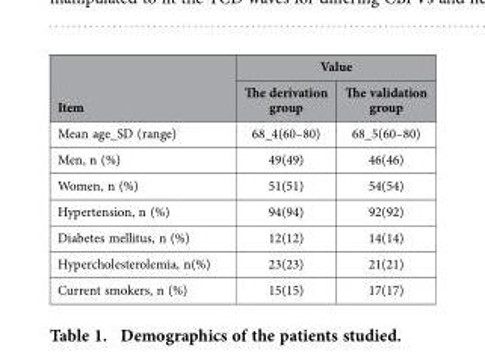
<table><thead><tr><td rowspan="2">Item</td><td colspan="2">Value</td></tr><tr><td>The derivation group</td><td>The validation group</td></tr></thead><tbody><tr><td>Mean age_SD (range)</td><td>68_4(60–80)</td><td>68_5(60–80)</td></tr><tr><td>Men, n (%)</td><td>49(49)</td><td>46(46)</td></tr><tr><td>Women, n (%)</td><td>51(51)</td><td>54(54)</td></tr><tr><td>Hypertension, n (%)</td><td>94(94)</td><td>92(92)</td></tr><tr><td>Diabetes mellitus, n (%)</td><td>12(12)</td><td>14(14)</td></tr><tr><td>Hypercholesterolemia, n(%)</td><td>23(23)</td><td>21(21)</td></tr><tr><td>Current smokers, n (%)</td><td>15(15)</td><td>17(17)</td></tr></tbody></table>